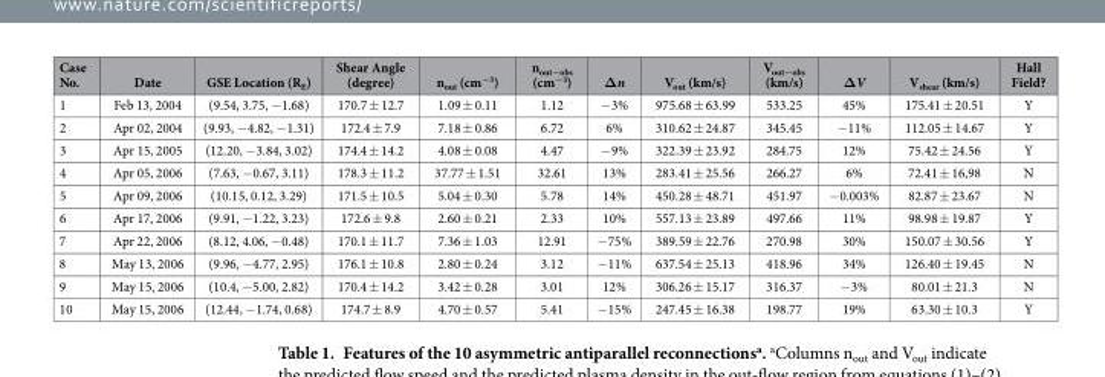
<table><thead><tr><td>Case No.</td><td>Date</td><td>GSE Location (R<sub>E</sub>)</td><td>Shear Angle (degree)</td><td>n<sub>out</sub> (cm<sup>−3</sup>)</td><td>n<sub>out−obs</sub> (cm<sup>−3</sup>)</td><td>Δn</td><td>V<sub>out</sub> (km/s)</td><td>V<sub>out−obs</sub> (km/s)</td><td>ΔV</td><td>V<sub>shear</sub> (km/s)</td><td>Hall Field?</td></tr></thead><tbody><tr><td>1</td><td>Feb 13, 2004</td><td>(9.54, 3.75, − 1.68)</td><td>170.7 ± 12.7</td><td>1.09 ± 0.11</td><td>1.12</td><td>− 3%</td><td>975.68 ± 63.99</td><td>533.25</td><td>45%</td><td>175.41 ± 20.51</td><td>Y</td></tr><tr><td>2</td><td>Apr 02, 2004</td><td>(9.93, − 4.82, − 1.31)</td><td>172.4 ± 7.9</td><td>7.18 ± 0.86</td><td>6.72</td><td>6%</td><td>310.62 ± 24.87</td><td>345.45</td><td>− 11%</td><td>112.05 ± 14.67</td><td>Y</td></tr><tr><td>3</td><td>Apr 15, 2005</td><td>(12.20, − 3.84, 3.02)</td><td>174.4 ± 14.2</td><td>4.08 ± 0.08</td><td>4.47</td><td>− 9%</td><td>322.39 ± 23.92</td><td>284.75</td><td>12%</td><td>75.42 ± 24.56</td><td>Y</td></tr><tr><td>4</td><td>Apr 05, 2006</td><td>(7.63, − 0.67, 3.11)</td><td>178.3 ± 11.2</td><td>37.77 ± 1.51</td><td>32.61</td><td>13%</td><td>283.41 ± 25.56</td><td>266.27</td><td>6%</td><td>72.41 ± 16,98</td><td>N</td></tr><tr><td>5</td><td>Apr 09, 2006</td><td>(10.15, 0.12, 3.29)</td><td>171.5 ± 10.5</td><td>5.04 ± 0.30</td><td>5.78</td><td>14%</td><td>450.28 ± 48.71</td><td>451.97</td><td>− 0.003%</td><td>82.87 ± 23.67</td><td>N</td></tr><tr><td>6</td><td>Apr 17, 2006</td><td>(9.91, − 1.22, 3.23)</td><td>172.6 ± 9.8</td><td>2.60 ± 0.21</td><td>2.33</td><td>10%</td><td>557.13 ± 23.89</td><td>497.66</td><td>11%</td><td>98.98 ± 19.87</td><td>Y</td></tr><tr><td>7</td><td>Apr 22, 2006</td><td>(8.12, 4.06, − 0.48)</td><td>170.1 ± 11.7</td><td>7.36 ± 1.03</td><td>12.91</td><td>− 75%</td><td>389.59 ± 22.76</td><td>270.98</td><td>30%</td><td>150.07 ± 30.56</td><td>Y</td></tr><tr><td>8</td><td>May 13, 2006</td><td>(9.96, − 4.77, 2.95)</td><td>176.1 ± 10.8</td><td>2.80 ± 0.24</td><td>3.12</td><td>− 11%</td><td>637.54 ± 25.13</td><td>418.96</td><td>34%</td><td>126.40 ± 19.45</td><td>N</td></tr><tr><td>9</td><td>May 15, 2006</td><td>(10.4, − 5.00, 2.82)</td><td>170.4 ± 14.2</td><td>3.42 ± 0.28</td><td>3.01</td><td>12%</td><td>306.26 ± 15.17</td><td>316.37</td><td>− 3%</td><td>80.01 ± 21.3</td><td>N</td></tr><tr><td>10</td><td>May 15, 2006</td><td>(12.44, − 1.74, 0.68)</td><td>174.7 ± 8.9</td><td>4.70 ± 0.57</td><td>5.41</td><td>− 15%</td><td>247.45 ± 16.38</td><td>198.77</td><td>19%</td><td>63.30 ± 10.3</td><td>Y</td></tr></tbody></table>